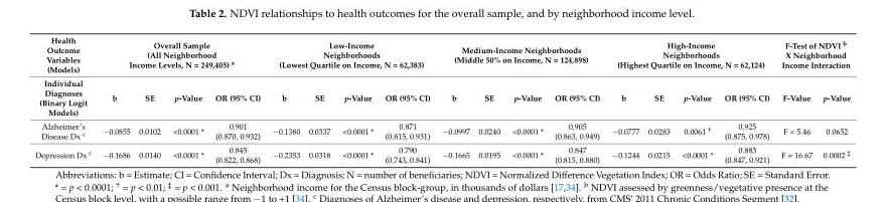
<table><thead><tr><td rowspan="2">Health Outcome Variables (Models) Individual Diagnoses (Binary Logit Models)</td><td colspan="4">Overall Sample (All Neighborhood Income Levels, N = 249,405) <sup>a</sup></td><td colspan="4">Low-Income Neighborhoods (Lowest Quartile on Income, N = 62,383)</td><td colspan="4">Medium-Income Neighborhoods (Middle 50% on Income, N = 124,898)</td><td colspan="4">High-Income Neighborhoods (Highest Quartile on Income, N = 62,124)</td><td colspan="2">F-Test of NDVI <sup>b</sup> X Neighborhood Income Interaction</td></tr><tr><td>b</td><td>SE</td><td>p-Value</td><td>OR (95% CI)</td><td>b</td><td>SE</td><td>p-Value</td><td>OR (95% CI)</td><td>b</td><td>SE</td><td>p-Value</td><td>OR (95% CI)</td><td>b</td><td>SE</td><td>p-Value</td><td>OR (95% CI)</td><td>F-Value</td><td>p-Value</td></tr></thead><tbody><tr><td>Alzheimer’s Disease Dx <sup>c</sup></td><td>−0.0855</td><td>0.0102</td><td>&lt;0.0001 *</td><td>0.901 (0.870, 0.932)</td><td>−0.1380</td><td>0.0337</td><td>&lt;0.0001 *</td><td>0.871 (0.815, 0.931)</td><td>−0.0997</td><td>0.0240</td><td>&lt;0.0001 *</td><td>0.905 (0.863, 0.949)</td><td>−0.0777</td><td>0.0283</td><td>0.0061 <sup>†</sup></td><td>0.925 (0.875, 0.978)</td><td>F = 5.46</td><td>0.0652</td></tr><tr><td>Depression Dx <sup>c</sup></td><td>−0.1686</td><td>0.0140</td><td>&lt;0.0001 *</td><td>0.845 (0.822, 0.868)</td><td>−0.2353</td><td>0.0318</td><td>&lt;0.0001 *</td><td>0.790 (0.743, 0.841)</td><td>−0.1665</td><td>0.0195</td><td>&lt;0.0001 *</td><td>0.847 (0.815, 0.880)</td><td>−0.1244</td><td>0.0215</td><td>&lt;0.0001 *</td><td>0.883 (0.847, 0.921)</td><td>F = 16.67</td><td>0.0002 <sup>‡</sup></td></tr></tbody></table>